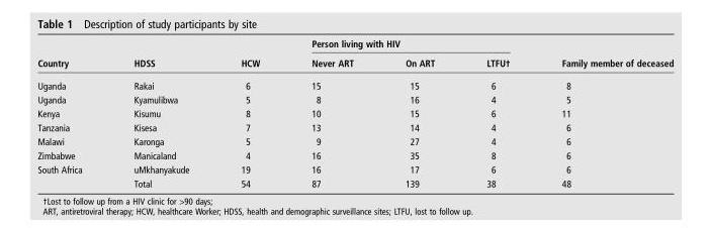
<table><thead><tr><td rowspan="2">Country</td><td rowspan="2">HDSS</td><td rowspan="2">HCW</td><td colspan="3">Person living with HIV</td><td rowspan="2">Family member of deceased</td></tr><tr><td>Never ART</td><td>On ART</td><td>LTFU†</td></tr></thead><tbody><tr><td>Uganda</td><td>Rakai</td><td>6</td><td>15</td><td>15</td><td>6</td><td>8</td></tr><tr><td>Uganda</td><td>Kyamulibwa</td><td>5</td><td>8</td><td>16</td><td>4</td><td>5</td></tr><tr><td>Kenya</td><td>Kisumu</td><td>8</td><td>10</td><td>15</td><td>6</td><td>11</td></tr><tr><td>Tanzania</td><td>Kisesa</td><td>7</td><td>13</td><td>14</td><td>4</td><td>6</td></tr><tr><td>Malawi</td><td>Karonga</td><td>5</td><td>9</td><td>27</td><td>4</td><td>6</td></tr><tr><td>Zimbabwe</td><td>Manicaland</td><td>4</td><td>16</td><td>35</td><td>8</td><td>6</td></tr><tr><td rowspan="2">South Africa</td><td>uMkhanyakude</td><td>19</td><td>16</td><td>17</td><td>6</td><td>6</td></tr><tr><td>Total</td><td>54</td><td>87</td><td>139</td><td>38</td><td>48</td></tr></tbody></table>